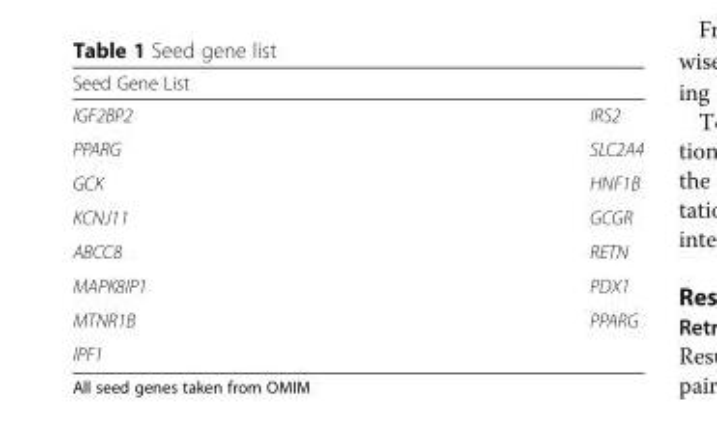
<table><thead><tr><td>Seed Gene List</td><td></td></tr></thead><tbody><tr><td>IGF2BP2</td><td>IRS2</td></tr><tr><td>PPARG</td><td>SLC2A4</td></tr><tr><td>GCK</td><td>HNF1B</td></tr><tr><td>KCNJ11</td><td>GCGR</td></tr><tr><td>ABCC8</td><td>RETN</td></tr><tr><td>MAPK8IP1</td><td>PDX1</td></tr><tr><td>MTNR1B</td><td>PPARG</td></tr><tr><td>IPF1</td><td></td></tr></tbody></table>